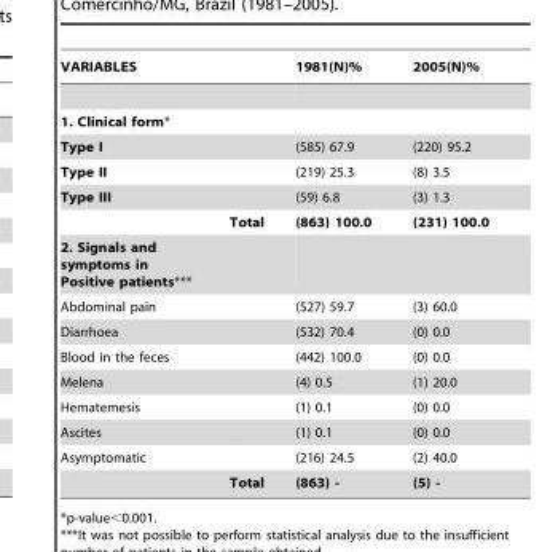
<table><thead><tr><td>VARIABLES</td><td></td><td>1981(N)%</td><td>2005(N)%</td></tr></thead><tbody><tr><td colspan="4">1. Clinical form*</td></tr><tr><td>Type I</td><td></td><td>(585) 67.9</td><td>(220) 95.2</td></tr><tr><td>Type II</td><td></td><td>(219) 25.3</td><td>(8) 3.5</td></tr><tr><td rowspan="2">Type III</td><td></td><td>(59) 6.8</td><td>(3) 1.3</td></tr><tr><td>Total</td><td>(863) 100.0</td><td>(231) 100.0</td></tr><tr><td colspan="4">2. Signals and symptoms in Positive patients***</td></tr><tr><td>Abdominal pain</td><td></td><td>(527) 59.7</td><td>(3) 60.0</td></tr><tr><td>Diarrhoea</td><td></td><td>(532) 70.4</td><td>(0) 0.0</td></tr><tr><td>Blood in the feces</td><td></td><td>(442) 100.0</td><td>(0) 0.0</td></tr><tr><td>Melena</td><td></td><td>(4) 0.5</td><td>(1) 20.0</td></tr><tr><td>Hematemesis</td><td></td><td>(1) 0.1</td><td>(0) 0.0</td></tr><tr><td>Ascites</td><td></td><td>(1) 0.1</td><td>(0) 0.0</td></tr><tr><td rowspan="2">Asymptomatic</td><td></td><td>(216) 24.5</td><td>(2) 40.0</td></tr><tr><td>Total</td><td>(863) -</td><td>(5) -</td></tr></tbody></table>